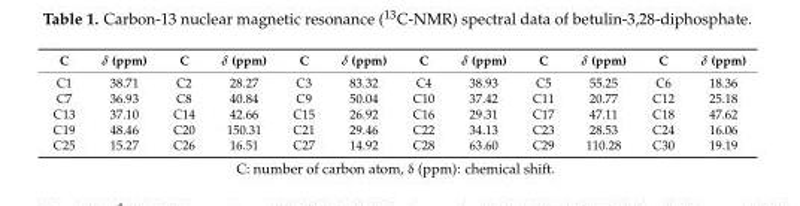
<table><thead><tr><td>C</td><td>δ (ppm)</td><td>C</td><td>δ (ppm)</td><td>C</td><td>δ (ppm)</td><td>C</td><td>δ (ppm)</td><td>C</td><td>δ (ppm)</td><td>C</td><td>δ (ppm)</td></tr></thead><tbody><tr><td>C1</td><td>38.71</td><td>C2</td><td>28.27</td><td>C3</td><td>83.32</td><td>C4</td><td>38.93</td><td>C5</td><td>55.25</td><td>C6</td><td>18.36</td></tr><tr><td>C7</td><td>36.93</td><td>C8</td><td>40.84</td><td>C9</td><td>50.04</td><td>C10</td><td>37.42</td><td>C11</td><td>20.77</td><td>C12</td><td>25.18</td></tr><tr><td>C13</td><td>37.10</td><td>C14</td><td>42.66</td><td>C15</td><td>26.92</td><td>C16</td><td>29.31</td><td>C17</td><td>47.11</td><td>C18</td><td>47.62</td></tr><tr><td>C19</td><td>48.46</td><td>C20</td><td>150.31</td><td>C21</td><td>29.46</td><td>C22</td><td>34.13</td><td>C23</td><td>28.53</td><td>C24</td><td>16.06</td></tr><tr><td>C25</td><td>15.27</td><td>C26</td><td>16.51</td><td>C27</td><td>14.92</td><td>C28</td><td>63.60</td><td>C29</td><td>110.28</td><td>C30</td><td>19.19</td></tr></tbody></table>